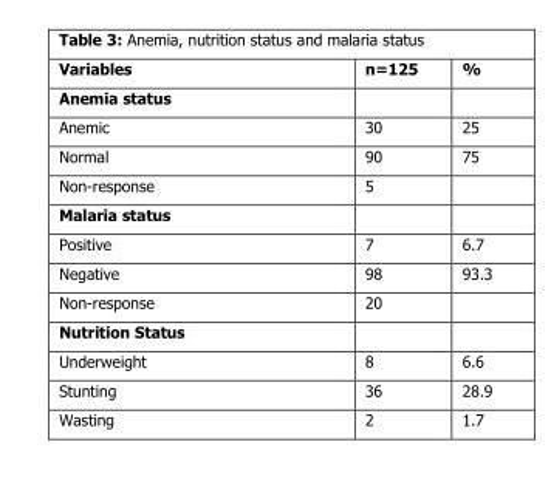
<table><thead><tr><td>Variables</td><td>n=125</td><td>%</td></tr></thead><tbody><tr><td colspan="3">Anemia status</td></tr><tr><td>Anemic</td><td>30</td><td>25</td></tr><tr><td>Normal</td><td>90</td><td>75</td></tr><tr><td>Non-response</td><td>5</td><td></td></tr><tr><td colspan="3">Malaria status</td></tr><tr><td>Positive</td><td>7</td><td>6.7</td></tr><tr><td>Negative</td><td>98</td><td>93.3</td></tr><tr><td>Non-response</td><td>20</td><td></td></tr><tr><td colspan="3">Nutrition Status</td></tr><tr><td>Underweight</td><td>8</td><td>6.6</td></tr><tr><td>Stunting</td><td>36</td><td>28.9</td></tr><tr><td>Wasting</td><td>2</td><td>1.7</td></tr></tbody></table>